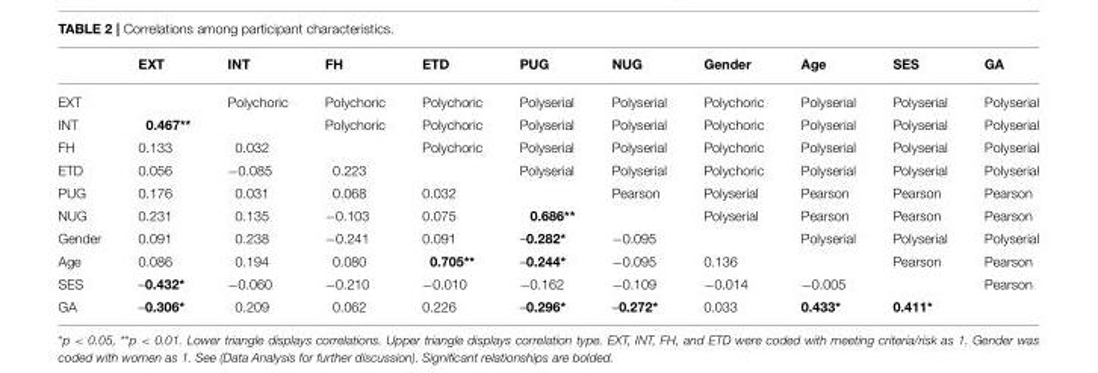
<table><thead><tr><td></td><td>EXT</td><td>INT</td><td>FH</td><td>ETD</td><td>PUG</td><td>NUG</td><td>Gender</td><td>Age</td><td>SES</td><td>GA</td></tr></thead><tbody><tr><td>EXT</td><td></td><td>Polychoric</td><td>Polychoric</td><td>Polychoric</td><td>Polyserial</td><td>Polyserial</td><td>Polychoric</td><td>Polyserial</td><td>Polyserial</td><td>Polyserial</td></tr><tr><td>INT</td><td>0.467**</td><td></td><td>Polychoric</td><td>Polychoric</td><td>Polyserial</td><td>Polyserial</td><td>Polychoric</td><td>Polyserial</td><td>Polyserial</td><td>Polyserial</td></tr><tr><td>FH</td><td>0.133</td><td>0.032</td><td></td><td>Polychoric</td><td>Polyserial</td><td>Polyserial</td><td>Polychoric</td><td>Polyserial</td><td>Polyserial</td><td>Polyserial</td></tr><tr><td>ETD</td><td>0.056</td><td>−0.085</td><td>0.223</td><td></td><td>Polyserial</td><td>Polyserial</td><td>Polychoric</td><td>Polyserial</td><td>Polyserial</td><td>Polyserial</td></tr><tr><td>PUG</td><td>0.176</td><td>0.031</td><td>0.068</td><td>0.032</td><td></td><td>Pearson</td><td>Polyserial</td><td>Pearson</td><td>Pearson</td><td>Pearson</td></tr><tr><td>NUG</td><td>0.231</td><td>0.135</td><td>−0.103</td><td>0.075</td><td>0.686**</td><td></td><td>Polyserial</td><td>Pearson</td><td>Pearson</td><td>Pearson</td></tr><tr><td>Gender</td><td>0.091</td><td>0.238</td><td>−0.241</td><td>0.091</td><td>–0.282*</td><td>−0.095</td><td></td><td>Polyserial</td><td>Polyserial</td><td>Polyserial</td></tr><tr><td>Age</td><td>0.086</td><td>0.194</td><td>0.080</td><td>0.705**</td><td>–0.244*</td><td>−0.095</td><td>0.136</td><td></td><td>Pearson</td><td>Pearson</td></tr><tr><td>SES</td><td>–0.432*</td><td>−0.060</td><td>−0.210</td><td>−0.010</td><td>−0.162</td><td>−0.109</td><td>−0.014</td><td>−0.005</td><td></td><td>Pearson</td></tr><tr><td>GA</td><td>–0.306*</td><td>0.209</td><td>0.062</td><td>0.226</td><td>–0.296*</td><td>–0.272*</td><td>0.033</td><td>0.433*</td><td>0.411*</td><td></td></tr></tbody></table>